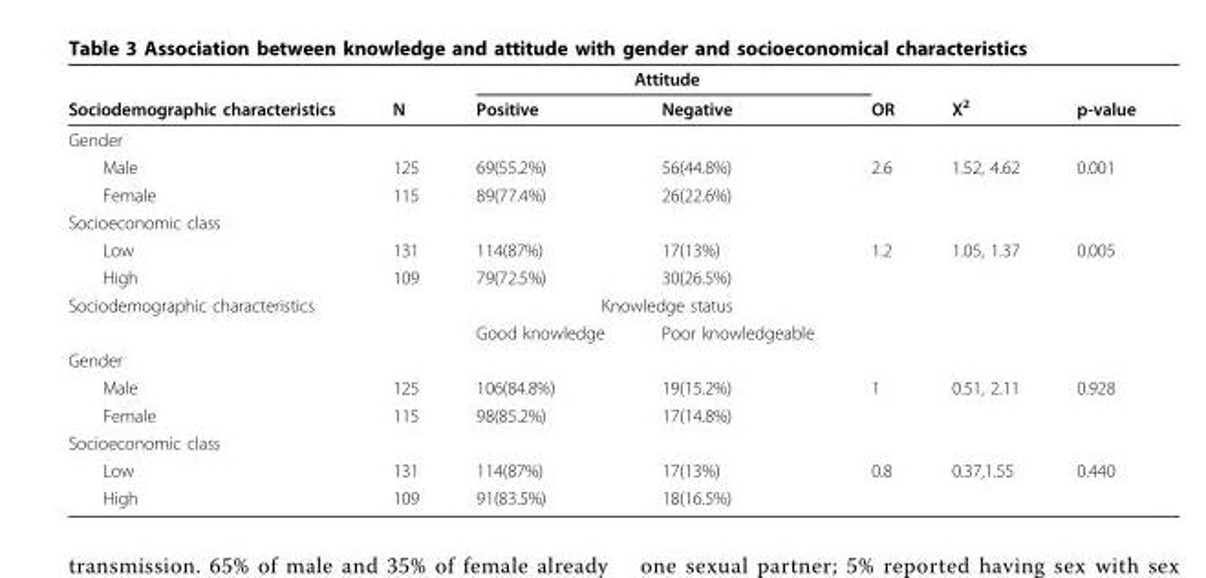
<table><thead><tr><td rowspan="2">Sociodemographic characteristics</td><td rowspan="2">N</td><td colspan="2">Attitude</td><td rowspan="2">OR</td><td rowspan="2">Χ<sup>2</sup></td><td rowspan="2">p-value</td></tr><tr><td>Positive</td><td>Negative</td></tr></thead><tbody><tr><td colspan="7">Gender</td></tr><tr><td>Male</td><td>125</td><td>69(55.2%)</td><td>56(44.8%)</td><td>2.6</td><td>1.52, 4.62</td><td>0.001</td></tr><tr><td>Female</td><td>115</td><td>89(77.4%)</td><td>26(22.6%)</td><td></td><td></td><td></td></tr><tr><td colspan="7">Socioeconomic class</td></tr><tr><td>Low</td><td>131</td><td>114(87%)</td><td>17(13%)</td><td>1.2</td><td>1.05, 1.37</td><td>0.005</td></tr><tr><td>High</td><td>109</td><td>79(72.5%)</td><td>30(26.5%)</td><td></td><td></td><td></td></tr><tr><td rowspan="2">Sociodemographic characteristics</td><td></td><td colspan="2">Knowledge status</td><td></td><td></td><td></td></tr><tr><td></td><td>Good knowledge</td><td>Poor knowledgeable</td><td></td><td></td><td></td></tr><tr><td colspan="7">Gender</td></tr><tr><td>Male</td><td>125</td><td>106(84.8%)</td><td>19(15.2%)</td><td>1</td><td>0.51, 2.11</td><td>0.928</td></tr><tr><td>Female</td><td>115</td><td>98(85.2%)</td><td>17(14.8%)</td><td></td><td></td><td></td></tr><tr><td colspan="7">Socioeconomic class</td></tr><tr><td>Low</td><td>131</td><td>114(87%)</td><td>17(13%)</td><td>0.8</td><td>0.37,1.55</td><td>0.440</td></tr><tr><td>High</td><td>109</td><td>91(83.5%)</td><td>18(16.5%)</td><td></td><td></td><td></td></tr></tbody></table>